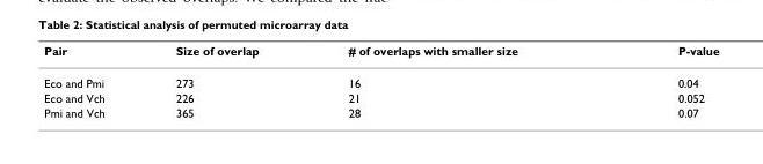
<table><thead><tr><td>Pair</td><td>Size of overlap</td><td># of overlaps with smaller size</td><td>P-value</td></tr></thead><tbody><tr><td>Eco and Pmi</td><td>273</td><td>16</td><td>0.04</td></tr><tr><td>Eco and Vch</td><td>226</td><td>21</td><td>0.052</td></tr><tr><td>Pmi and Vch</td><td>365</td><td>28</td><td>0.07</td></tr></tbody></table>